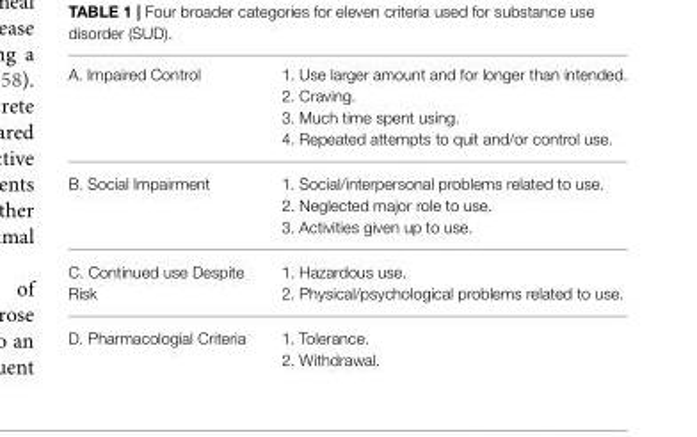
<table><tbody><tr><td>A. Impaired Control</td><td>1. Use larger amount and for longer than intended. 2. Craving. 3. Much time spent using. 4. Repeated attempts to quit and/or control use.</td></tr><tr><td>B. Social Impairment</td><td>1. Social/interpersonal problems related to use. 2. Neglected major role to use. 3. Activities given up to use.</td></tr><tr><td>C. Continued use Despite Risk</td><td>1. Hazardous use. 2. Physical/psychological problems related to use.</td></tr><tr><td>D. Pharmacologial Criteria</td><td>1. Tolerance. 2. Withdrawal.</td></tr></tbody></table>